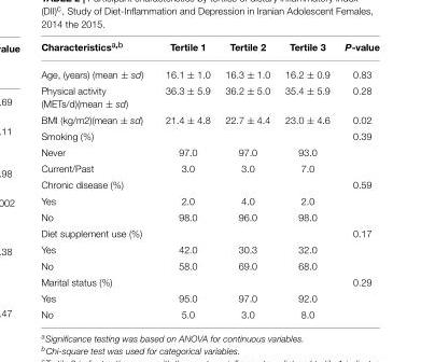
<table><thead><tr><td>Characteristics<sup>a,b</sup></td><td>Tertile 1</td><td>Tertile 2</td><td>Tertile 3</td><td>P-value</td></tr></thead><tbody><tr><td>Age, (years) (mean ± sd)</td><td>16.1 ± 1.0</td><td>16.3 ± 1.0</td><td>16.2 ± 0.9</td><td>0.83</td></tr><tr><td>Physical activity (METs/d)(mean ± sd)</td><td>36.3 ± 5.9</td><td>36.2 ± 5.0</td><td>35.4 ± 5.9</td><td>0.28</td></tr><tr><td>BMI (kg/m2)(mean ± sd)</td><td>21.4 ± 4.8</td><td>22.7 ± 4.4</td><td>23.0 ± 4.6</td><td>0.02</td></tr><tr><td>Smoking (%)</td><td></td><td></td><td></td><td>0.39</td></tr><tr><td>Never</td><td>97.0</td><td>97.0</td><td>93.0</td><td></td></tr><tr><td>Current/Past</td><td>3.0</td><td>3.0</td><td>7.0</td><td></td></tr><tr><td>Chronic disease (%)</td><td></td><td></td><td></td><td>0.59</td></tr><tr><td>Yes</td><td>2.0</td><td>4.0</td><td>2.0</td><td></td></tr><tr><td>No</td><td>98.0</td><td>96.0</td><td>98.0</td><td></td></tr><tr><td>Diet supplement use (%)</td><td></td><td></td><td></td><td>0.17</td></tr><tr><td>Yes</td><td>42.0</td><td>30.3</td><td>32.0</td><td></td></tr><tr><td>No</td><td>58.0</td><td>69.0</td><td>68.0</td><td></td></tr><tr><td>Marital status (%)</td><td></td><td></td><td></td><td>0.29</td></tr><tr><td>Yes</td><td>95.0</td><td>97.0</td><td>92.0</td><td></td></tr><tr><td>No</td><td>5.0</td><td>3.0</td><td>8.0</td><td></td></tr></tbody></table>